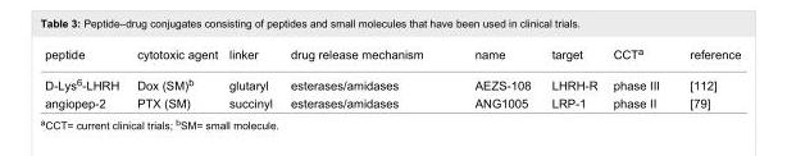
<table><tbody><tr><td>peptide</td><td>cytotoxic agent</td><td>linker</td><td>drug release mechanism</td><td>name</td><td>target</td><td>CCT<sup>a</sup></td><td>reference</td></tr><tr><td>D-Lys<sup>6</sup>-LHRH</td><td>Dox (SM)<sup>b</sup></td><td>glutaryl</td><td>esterases/amidases</td><td>AEZS-108</td><td>LHRH-R</td><td>phase III</td><td>[112]</td></tr><tr><td>angiopep-2</td><td>PTX (SM)</td><td>succinyl</td><td>esterases/amidases</td><td>ANG1005</td><td>LRP-1</td><td>phase II</td><td>[79]</td></tr></tbody></table>